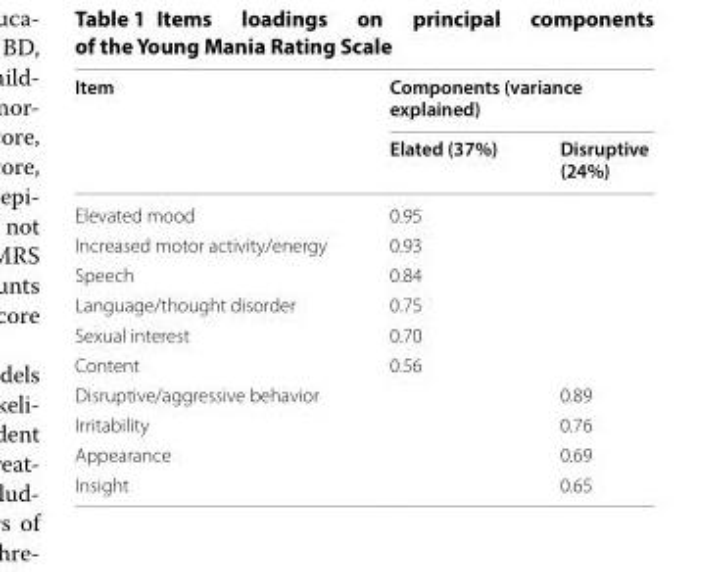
<table><thead><tr><td rowspan="2">Item</td><td colspan="2">Components (variance explained)</td></tr><tr><td>Elated (37%)</td><td>Disruptive (24%)</td></tr></thead><tbody><tr><td>Elevated mood</td><td>0.95</td><td></td></tr><tr><td>Increased motor activity/energy</td><td>0.93</td><td></td></tr><tr><td>Speech</td><td>0.84</td><td></td></tr><tr><td>Language/thought disorder</td><td>0.75</td><td></td></tr><tr><td>Sexual interest</td><td>0.70</td><td></td></tr><tr><td>Content</td><td>0.56</td><td></td></tr><tr><td>Disruptive/aggressive behavior</td><td></td><td>0.89</td></tr><tr><td>Irritability</td><td></td><td>0.76</td></tr><tr><td>Appearance</td><td></td><td>0.69</td></tr><tr><td>Insight</td><td></td><td>0.65</td></tr></tbody></table>